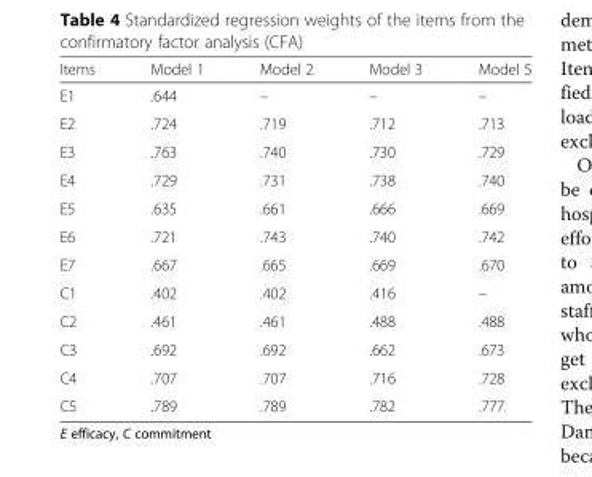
<table><thead><tr><td>Items</td><td>Model 1</td><td>Model 2</td><td>Model 3</td><td>Model 5</td></tr></thead><tbody><tr><td>E1</td><td>.644</td><td>–</td><td>–</td><td>–</td></tr><tr><td>E2</td><td>.724</td><td>.719</td><td>.712</td><td>.713</td></tr><tr><td>E3</td><td>.763</td><td>.740</td><td>.730</td><td>.729</td></tr><tr><td>E4</td><td>.729</td><td>.731</td><td>.738</td><td>.740</td></tr><tr><td>E5</td><td>.635</td><td>.661</td><td>.666</td><td>.669</td></tr><tr><td>E6</td><td>.721</td><td>.743</td><td>.740</td><td>.742</td></tr><tr><td>E7</td><td>.667</td><td>.665</td><td>.669</td><td>.670</td></tr><tr><td>C1</td><td>.402</td><td>.402</td><td>.416</td><td>–</td></tr><tr><td>C2</td><td>.461</td><td>.461</td><td>.488</td><td>.488</td></tr><tr><td>C3</td><td>.692</td><td>.692</td><td>.662</td><td>.673</td></tr><tr><td>C4</td><td>.707</td><td>.707</td><td>.716</td><td>.728</td></tr><tr><td>C5</td><td>.789</td><td>.789</td><td>.782</td><td>.777</td></tr></tbody></table>